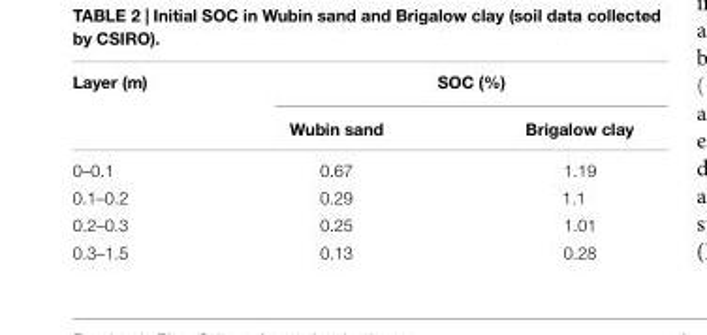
<table><thead><tr><td rowspan="2">Layer (m)</td><td colspan="2">SOC (%)</td></tr><tr><td>Wubin sand</td><td>Brigalow clay</td></tr></thead><tbody><tr><td>0–0.1</td><td>0.67</td><td>1.19</td></tr><tr><td>0.1–0.2</td><td>0.29</td><td>1.1</td></tr><tr><td>0.2–0.3</td><td>0.25</td><td>1.01</td></tr><tr><td>0.3–1.5</td><td>0.13</td><td>0.28</td></tr></tbody></table>